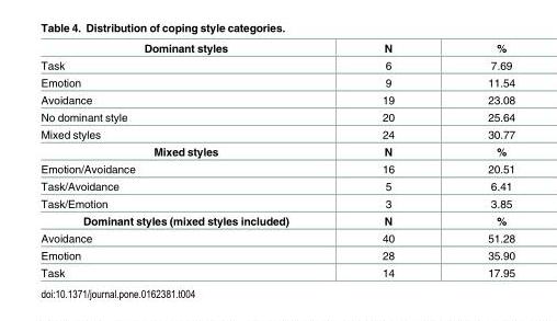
<table><tbody><tr><td>Dominant styles</td><td>N</td><td>%</td></tr><tr><td>Task</td><td>6</td><td>7.69</td></tr><tr><td>Emotion</td><td>9</td><td>11.54</td></tr><tr><td>Avoidance</td><td>19</td><td>23.08</td></tr><tr><td>No dominant style</td><td>20</td><td>25.64</td></tr><tr><td>Mixed styles</td><td>24</td><td>30.77</td></tr><tr><td>Mixed styles</td><td>N</td><td>%</td></tr><tr><td>Emotion/Avoidance</td><td>16</td><td>20.51</td></tr><tr><td>Task/Avoidance</td><td>5</td><td>6.41</td></tr><tr><td>Task/Emotion</td><td>3</td><td>3.85</td></tr><tr><td>Dominant styles (mixed styles included)</td><td>N</td><td>%</td></tr><tr><td>Avoidance</td><td>40</td><td>51.28</td></tr><tr><td>Emotion</td><td>28</td><td>35.90</td></tr><tr><td>Task</td><td>14</td><td>17.95</td></tr></tbody></table>